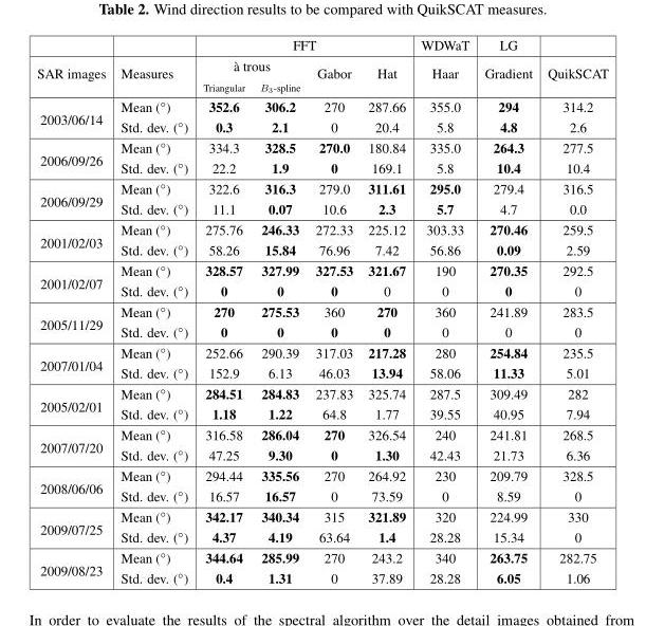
<table><thead><tr><td rowspan="3">SAR images</td><td rowspan="3">Measures</td><td colspan="4">FFT</td><td rowspan="3">WDWaT Haar</td><td rowspan="3">LG Gradient</td><td rowspan="3">QuikSCAT</td></tr><tr><td colspan="2">`a trous</td><td rowspan="2">Gabor</td><td rowspan="2">Hat</td></tr><tr><td>Triangular</td><td>B3-spline</td></tr></thead><tbody><tr><td rowspan="2">2003/06/14</td><td>Mean (◦)</td><td>352.6</td><td>306.2</td><td>270</td><td>287.66</td><td>355.0</td><td>294</td><td>314.2</td></tr><tr><td>Std. dev. (◦)</td><td>0.3</td><td>2.1</td><td>0</td><td>20.4</td><td>5.8</td><td>4.8</td><td>2.6</td></tr><tr><td rowspan="2">2006/09/26</td><td>Mean (◦)</td><td>334.3</td><td>328.5</td><td>270.0</td><td>180.84</td><td>335.0</td><td>264.3</td><td>277.5</td></tr><tr><td>Std. dev. (◦)</td><td>22.2</td><td>1.9</td><td>0</td><td>169.1</td><td>5.8</td><td>10.4</td><td>10.4</td></tr><tr><td rowspan="2">2006/09/29</td><td>Mean (◦)</td><td>322.6</td><td>316.3</td><td>279.0</td><td>311.61</td><td>295.0</td><td>279.4</td><td>316.5</td></tr><tr><td>Std. dev. (◦)</td><td>11.1</td><td>0.07</td><td>10.6</td><td>2.3</td><td>5.7</td><td>4.7</td><td>0.0</td></tr><tr><td rowspan="2">2001/02/03</td><td>Mean (◦)</td><td>275.76</td><td>246.33</td><td>272.33</td><td>225.12</td><td>303.33</td><td>270.46</td><td>259.5</td></tr><tr><td>Std. dev. (◦)</td><td>58.26</td><td>15.84</td><td>76.96</td><td>7.42</td><td>56.86</td><td>0.09</td><td>2.59</td></tr><tr><td rowspan="2">2001/02/07</td><td>Mean (◦)</td><td>328.57</td><td>327.99</td><td>327.53</td><td>321.67</td><td>190</td><td>270.35</td><td>292.5</td></tr><tr><td>Std. dev. (◦)</td><td>0</td><td>0</td><td>0</td><td>0</td><td>0</td><td>0</td><td>0</td></tr><tr><td rowspan="2">2005/11/29</td><td>Mean (◦)</td><td>270</td><td>275.53</td><td>360</td><td>270</td><td>360</td><td>241.89</td><td>283.5</td></tr><tr><td>Std. dev. (◦)</td><td>0</td><td>0</td><td>0</td><td>0</td><td>0</td><td>0</td><td>0</td></tr><tr><td rowspan="2">2007/01/04</td><td>Mean (◦)</td><td>252.66</td><td>290.39</td><td>317.03</td><td>217.28</td><td>280</td><td>254.84</td><td>235.5</td></tr><tr><td>Std. dev. (◦)</td><td>152.9</td><td>6.13</td><td>46.03</td><td>13.94</td><td>58.06</td><td>11.33</td><td>5.01</td></tr><tr><td rowspan="2">2005/02/01</td><td>Mean (◦)</td><td>284.51</td><td>284.83</td><td>237.83</td><td>325.74</td><td>287.5</td><td>309.49</td><td>282</td></tr><tr><td>Std. dev. (◦)</td><td>1.18</td><td>1.22</td><td>64.8</td><td>1.77</td><td>39.55</td><td>40.95</td><td>7.94</td></tr><tr><td rowspan="2">2007/07/20</td><td>Mean (◦)</td><td>316.58</td><td>286.04</td><td>270</td><td>326.54</td><td>240</td><td>241.81</td><td>268.5</td></tr><tr><td>Std. dev. (◦)</td><td>47.25</td><td>9.30</td><td>0</td><td>1.30</td><td>42.43</td><td>21.73</td><td>6.36</td></tr><tr><td rowspan="2">2008/06/06</td><td>Mean (◦)</td><td>294.44</td><td>335.56</td><td>270</td><td>264.92</td><td>230</td><td>209.79</td><td>328.5</td></tr><tr><td>Std. dev. (◦)</td><td>16.57</td><td>16.57</td><td>0</td><td>73.59</td><td>0</td><td>8.59</td><td>0</td></tr><tr><td rowspan="2">2009/07/25</td><td>Mean (◦)</td><td>342.17</td><td>340.34</td><td>315</td><td>321.89</td><td>320</td><td>224.99</td><td>330</td></tr><tr><td>Std. dev. (◦)</td><td>4.37</td><td>4.19</td><td>63.64</td><td>1.4</td><td>28.28</td><td>15.34</td><td>0</td></tr><tr><td rowspan="2">2009/08/23</td><td>Mean (◦)</td><td>344.64</td><td>285.99</td><td>270</td><td>243.2</td><td>340</td><td>263.75</td><td>282.75</td></tr><tr><td>Std. dev. (◦)</td><td>0.4</td><td>1.31</td><td>0</td><td>37.89</td><td>28.28</td><td>6.05</td><td>1.06</td></tr></tbody></table>